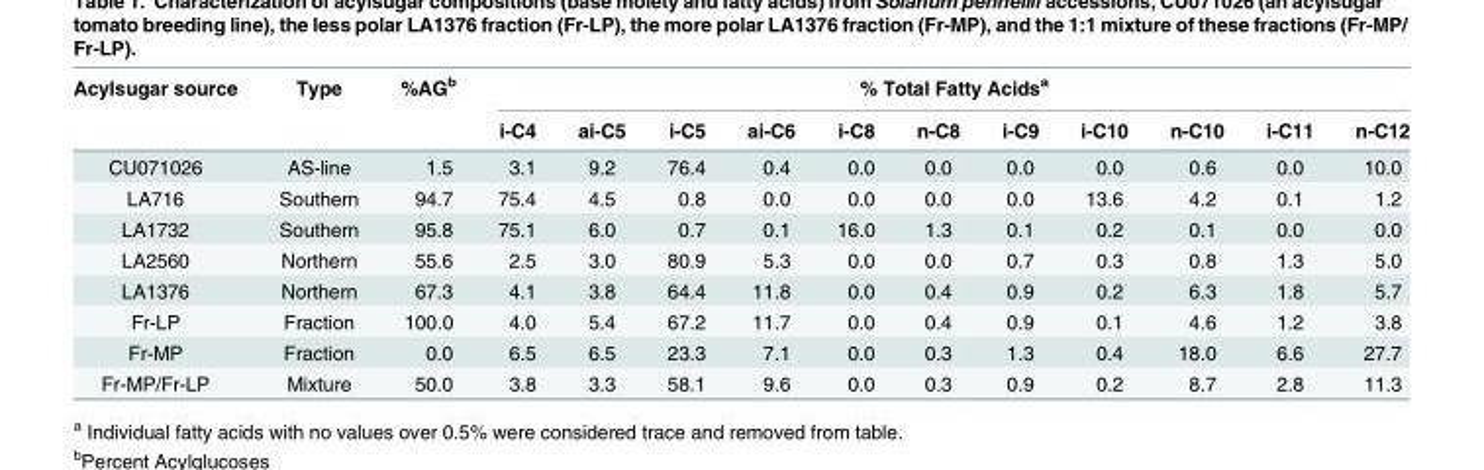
<table><thead><tr><td rowspan="2">Acylsugar source</td><td rowspan="2">Type</td><td rowspan="2">%AG<sup>b</sup></td><td colspan="11">% Total Fatty Acids<sup>a</sup></td></tr><tr><td>i-C4</td><td>ai-C5</td><td>i-C5</td><td>ai-C6</td><td>i-C8</td><td>n-C8</td><td>i-C9</td><td>i-C10</td><td>n-C10</td><td>i-C11</td><td>n-C12</td></tr></thead><tbody><tr><td>CU071026</td><td>AS-line</td><td>1.5</td><td>3.1</td><td>9.2</td><td>76.4</td><td>0.4</td><td>0.0</td><td>0.0</td><td>0.0</td><td>0.0</td><td>0.6</td><td>0.0</td><td>10.0</td></tr><tr><td>LA716</td><td>Southern</td><td>94.7</td><td>75.4</td><td>4.5</td><td>0.8</td><td>0.0</td><td>0.0</td><td>0.0</td><td>0.0</td><td>13.6</td><td>4.2</td><td>0.1</td><td>1.2</td></tr><tr><td>LA1732</td><td>Southern</td><td>95.8</td><td>75.1</td><td>6.0</td><td>0.7</td><td>0.1</td><td>16.0</td><td>1.3</td><td>0.1</td><td>0.2</td><td>0.1</td><td>0.0</td><td>0.0</td></tr><tr><td>LA2560</td><td>Northern</td><td>55.6</td><td>2.5</td><td>3.0</td><td>80.9</td><td>5.3</td><td>0.0</td><td>0.0</td><td>0.7</td><td>0.3</td><td>0.8</td><td>1.3</td><td>5.0</td></tr><tr><td>LA1376</td><td>Northern</td><td>67.3</td><td>4.1</td><td>3.8</td><td>64.4</td><td>11.8</td><td>0.0</td><td>0.4</td><td>0.9</td><td>0.2</td><td>6.3</td><td>1.8</td><td>5.7</td></tr><tr><td>Fr-LP</td><td>Fraction</td><td>100.0</td><td>4.0</td><td>5.4</td><td>67.2</td><td>11.7</td><td>0.0</td><td>0.4</td><td>0.9</td><td>0.1</td><td>4.6</td><td>1.2</td><td>3.8</td></tr><tr><td>Fr-MP</td><td>Fraction</td><td>0.0</td><td>6.5</td><td>6.5</td><td>23.3</td><td>7.1</td><td>0.0</td><td>0.3</td><td>1.3</td><td>0.4</td><td>18.0</td><td>6.6</td><td>27.7</td></tr><tr><td>Fr-MP/Fr-LP</td><td>Mixture</td><td>50.0</td><td>3.8</td><td>3.3</td><td>58.1</td><td>9.6</td><td>0.0</td><td>0.3</td><td>0.9</td><td>0.2</td><td>8.7</td><td>2.8</td><td>11.3</td></tr></tbody></table>